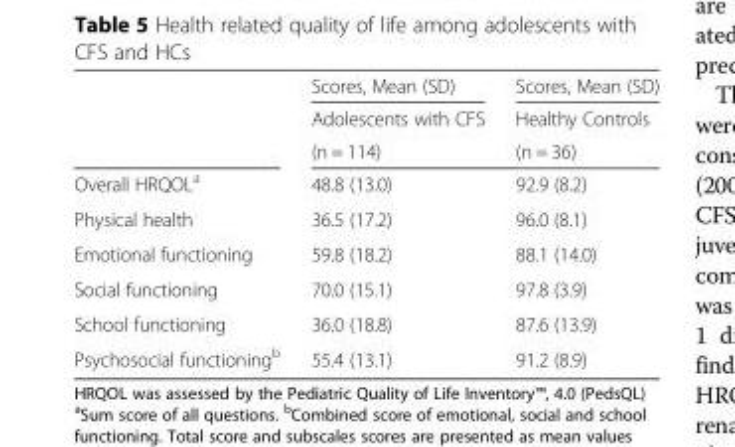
<table><thead><tr><td rowspan="3"></td><td rowspan="3">Scores, Mean (SD) Adolescents with CFS (n = 114)</td><td rowspan="3">Scores, Mean (SD) Healthy Controls (n = 36)</td></tr><tr></tr><tr></tr></thead><tbody><tr><td>Overall HRQOL<sup>a</sup></td><td>48.8 (13.0)</td><td>92.9 (8.2)</td></tr><tr><td>Physical health</td><td>36.5 (17.2)</td><td>96.0 (8.1)</td></tr><tr><td>Emotional functioning</td><td>59.8 (18.2)</td><td>88.1 (14.0)</td></tr><tr><td>Social functioning</td><td>70.0 (15.1)</td><td>97.8 (3.9)</td></tr><tr><td>School functioning</td><td>36.0 (18.8)</td><td>87.6 (13.9)</td></tr><tr><td>Psychosocial functioning<sup>b</sup></td><td>55.4 (13.1)</td><td>91.2 (8.9)</td></tr></tbody></table>